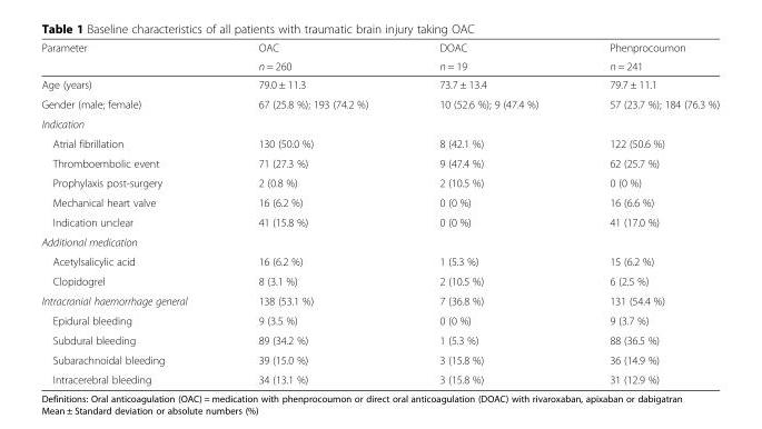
<table><thead><tr><td rowspan="2">Parameter</td><td rowspan="2">OAC n = 260</td><td rowspan="2">DOAC n = 19</td><td rowspan="2">Phenprocoumon n = 241</td></tr><tr></tr></thead><tbody><tr><td>Age (years)</td><td>79.0 ± 11.3</td><td>73.7 ± 13.4</td><td>79.7 ± 11.1</td></tr><tr><td>Gender (male; female)</td><td>67 (25.8 %); 193 (74.2 %)</td><td>10 (52.6 %); 9 (47.4 %)</td><td>57 (23.7 %); 184 (76.3 %)</td></tr><tr><td colspan="4">Indication</td></tr><tr><td>Atrial fibrillation</td><td>130 (50.0 %)</td><td>8 (42.1 %)</td><td>122 (50.6 %)</td></tr><tr><td>Thromboembolic event</td><td>71 (27.3 %)</td><td>9 (47.4 %)</td><td>62 (25.7 %)</td></tr><tr><td>Prophylaxis post-surgery</td><td>2 (0.8 %)</td><td>2 (10.5 %)</td><td>0 (0 %)</td></tr><tr><td>Mechanical heart valve</td><td>16 (6.2 %)</td><td>0 (0 %)</td><td>16 (6.6 %)</td></tr><tr><td>Indication unclear</td><td>41 (15.8 %)</td><td>0 (0 %)</td><td>41 (17.0 %)</td></tr><tr><td colspan="4">Additional medication</td></tr><tr><td>Acetylsalicylic acid</td><td>16 (6.2 %)</td><td>1 (5.3 %)</td><td>15 (6.2 %)</td></tr><tr><td>Clopidogrel</td><td>8 (3.1 %)</td><td>2 (10.5 %)</td><td>6 (2.5 %)</td></tr><tr><td>Intracranial haemorrhage general</td><td>138 (53.1 %)</td><td>7 (36.8 %)</td><td>131 (54.4 %)</td></tr><tr><td>Epidural bleeding</td><td>9 (3.5 %)</td><td>0 (0 %)</td><td>9 (3.7 %)</td></tr><tr><td>Subdural bleeding</td><td>89 (34.2 %)</td><td>1 (5.3 %)</td><td>88 (36.5 %)</td></tr><tr><td>Subarachnoidal bleeding</td><td>39 (15.0 %)</td><td>3 (15.8 %)</td><td>36 (14.9 %)</td></tr><tr><td>Intracerebral bleeding</td><td>34 (13.1 %)</td><td>3 (15.8 %)</td><td>31 (12.9 %)</td></tr></tbody></table>